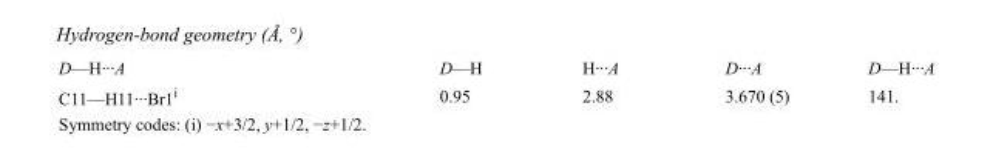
<table><tbody><tr><td>D—H···A</td><td>D—H</td><td>H···A</td><td>D···A</td><td>D—H···A</td></tr><tr><td>C11—H11···Br1<sup>i</sup></td><td>0.95</td><td>2.88</td><td>3.670 (5)</td><td>141.</td></tr></tbody></table>